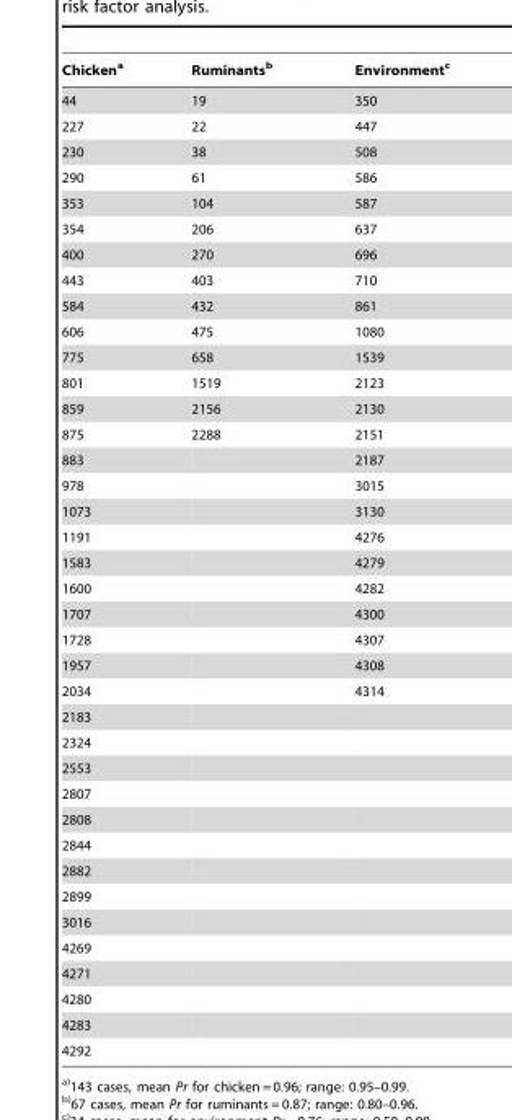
<table><thead><tr><td>Chicken<sup>a</sup></td><td>Ruminants<sup>b</sup></td><td>Environment<sup>c</sup></td></tr></thead><tbody><tr><td>44</td><td>19</td><td>350</td></tr><tr><td>227</td><td>22</td><td>447</td></tr><tr><td>230</td><td>38</td><td>508</td></tr><tr><td>290</td><td>61</td><td>586</td></tr><tr><td>353</td><td>104</td><td>587</td></tr><tr><td>354</td><td>206</td><td>637</td></tr><tr><td>400</td><td>270</td><td>696</td></tr><tr><td>443</td><td>403</td><td>710</td></tr><tr><td>584</td><td>432</td><td>861</td></tr><tr><td>606</td><td>475</td><td>1080</td></tr><tr><td>775</td><td>658</td><td>1539</td></tr><tr><td>801</td><td>1519</td><td>2123</td></tr><tr><td>859</td><td>2156</td><td>2130</td></tr><tr><td>875</td><td>2288</td><td>2151</td></tr><tr><td>883</td><td></td><td>2187</td></tr><tr><td>978</td><td></td><td>3015</td></tr><tr><td>1073</td><td></td><td>3130</td></tr><tr><td>1191</td><td></td><td>4276</td></tr><tr><td>1583</td><td></td><td>4279</td></tr><tr><td>1600</td><td></td><td>4282</td></tr><tr><td>1707</td><td></td><td>4300</td></tr><tr><td>1728</td><td></td><td>4307</td></tr><tr><td>1957</td><td></td><td>4308</td></tr><tr><td>2034</td><td></td><td>4314</td></tr><tr><td colspan="3">2183</td></tr><tr><td colspan="3">2324</td></tr><tr><td colspan="3">2553</td></tr><tr><td colspan="3">2807</td></tr><tr><td colspan="3">2808</td></tr><tr><td colspan="3">2844</td></tr><tr><td colspan="3">2882</td></tr><tr><td colspan="3">2899</td></tr><tr><td colspan="3">3016</td></tr><tr><td colspan="3">4269</td></tr><tr><td colspan="3">4271</td></tr><tr><td colspan="3">4280</td></tr><tr><td colspan="3">4283</td></tr><tr><td>4292</td><td></td><td></td></tr></tbody></table>